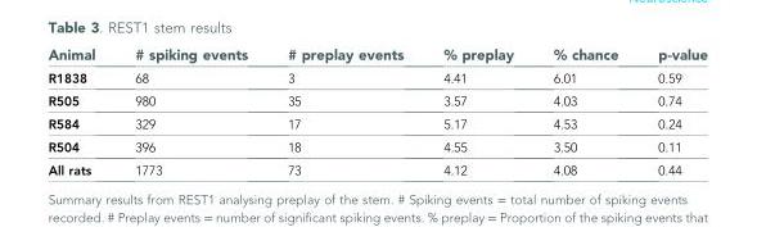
<table><thead><tr><td>Animal</td><td># spiking events</td><td># preplay events</td><td>% preplay</td><td>% chance</td><td>p-value</td></tr></thead><tbody><tr><td>R1838</td><td>68</td><td>3</td><td>4.41</td><td>6.01</td><td>0.59</td></tr><tr><td>R505</td><td>980</td><td>35</td><td>3.57</td><td>4.03</td><td>0.74</td></tr><tr><td>R584</td><td>329</td><td>17</td><td>5.17</td><td>4.53</td><td>0.24</td></tr><tr><td>R504</td><td>396</td><td>18</td><td>4.55</td><td>3.50</td><td>0.11</td></tr><tr><td>All rats</td><td>1773</td><td>73</td><td>4.12</td><td>4.08</td><td>0.44</td></tr></tbody></table>